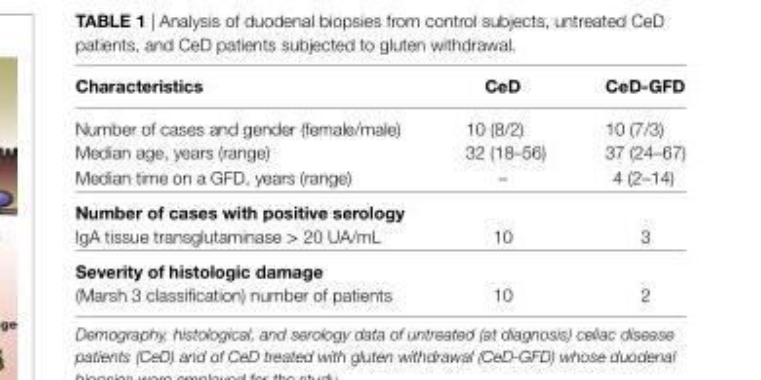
<table><thead><tr><td>characteristics</td><td>ceD</td><td>ceD-GFD</td></tr></thead><tbody><tr><td>Number of cases and gender (female/male)</td><td>10 (8/2)</td><td>10 (7/3)</td></tr><tr><td>Median age, years (range)</td><td>32 (18–56)</td><td>37 (24–67)</td></tr><tr><td>Median time on a GFD, years (range)</td><td>–</td><td>4 (2–14)</td></tr><tr><td colspan="3">Number of cases with positive serology</td></tr><tr><td>IgA tissue transglutaminase &gt; 20 UA/mL</td><td>10</td><td>3</td></tr><tr><td colspan="3">severity of histologic damage</td></tr><tr><td>(Marsh 3 classification) number of patients</td><td>10</td><td>2</td></tr></tbody></table>